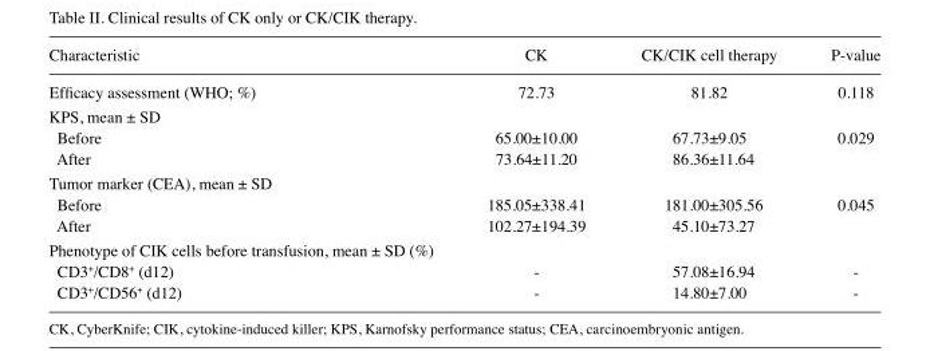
<table><thead><tr><td>Characteristic</td><td>CK</td><td>CK/CIK cell therapy</td><td>P-value</td></tr></thead><tbody><tr><td>Efficacy assessment (WHO; %)</td><td>72.73</td><td>81.82</td><td>0.118</td></tr><tr><td colspan="4">KPS, mean ± SD</td></tr><tr><td>Before</td><td>65.00±10.00</td><td>67.73±9.05</td><td>0.029</td></tr><tr><td>After</td><td>73.64±11.20</td><td>86.36±11.64</td><td></td></tr><tr><td colspan="4">Tumor marker (CEA), mean ± SD</td></tr><tr><td>Before</td><td>185.05±338.41</td><td>181.00±305.56</td><td>0.045</td></tr><tr><td>After</td><td>102.27±194.39</td><td>45.10±73.27</td><td></td></tr><tr><td colspan="4">Phenotype of CIK cells before transfusion, mean ± SD (%)</td></tr><tr><td>CD3<sup>+</sup>/CD8<sup>+</sup> (d12)</td><td>-</td><td>57.08±16.94</td><td>-</td></tr><tr><td>CD3<sup>+</sup>/CD56<sup>+</sup> (d12)</td><td>-</td><td>14.80±7.00</td><td>-</td></tr></tbody></table>